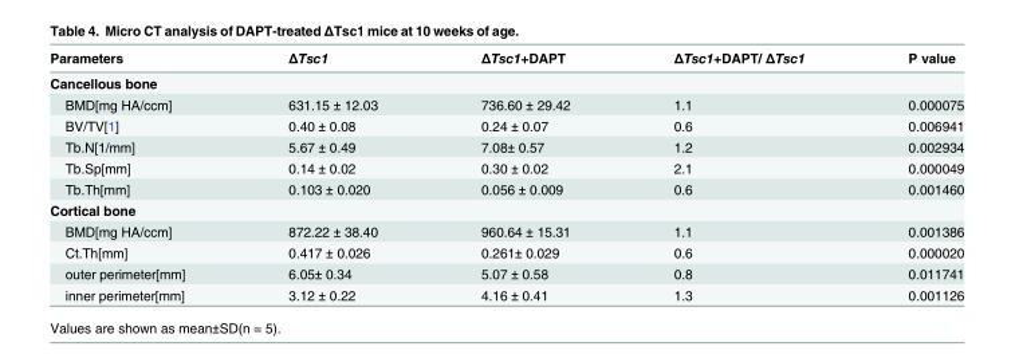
<table><thead><tr><td>Parameters</td><td>ΔTsc1</td><td>ΔTsc1+DAPT</td><td>ΔTsc1+DAPT/ ΔTsc1</td><td>P value</td></tr></thead><tbody><tr><td colspan="5">Cancellous bone</td></tr><tr><td>BMD[mg HA/ccm]</td><td>631.15 ± 12.03</td><td>736.60 ± 29.42</td><td>1.1</td><td>0.000075</td></tr><tr><td>BV/TV[1]</td><td>0.40 ± 0.08</td><td>0.24 ± 0.07</td><td>0.6</td><td>0.006941</td></tr><tr><td>Tb.N[1/mm]</td><td>5.67 ± 0.49</td><td>7.08± 0.57</td><td>1.2</td><td>0.002934</td></tr><tr><td>Tb.Sp[mm]</td><td>0.14 ± 0.02</td><td>0.30 ± 0.02</td><td>2.1</td><td>0.000049</td></tr><tr><td>Tb.Th[mm]</td><td>0.103 ± 0.020</td><td>0.056 ± 0.009</td><td>0.6</td><td>0.001460</td></tr><tr><td colspan="5">Cortical bone</td></tr><tr><td>BMD[mg HA/ccm]</td><td>872.22 ± 38.40</td><td>960.64 ± 15.31</td><td>1.1</td><td>0.001386</td></tr><tr><td>Ct.Th[mm]</td><td>0.417 ± 0.026</td><td>0.261± 0.029</td><td>0.6</td><td>0.000020</td></tr><tr><td>outer perimeter[mm]</td><td>6.05± 0.34</td><td>5.07 ± 0.58</td><td>0.8</td><td>0.011741</td></tr><tr><td>inner perimeter[mm]</td><td>3.12 ± 0.22</td><td>4.16 ± 0.41</td><td>1.3</td><td>0.001126</td></tr></tbody></table>